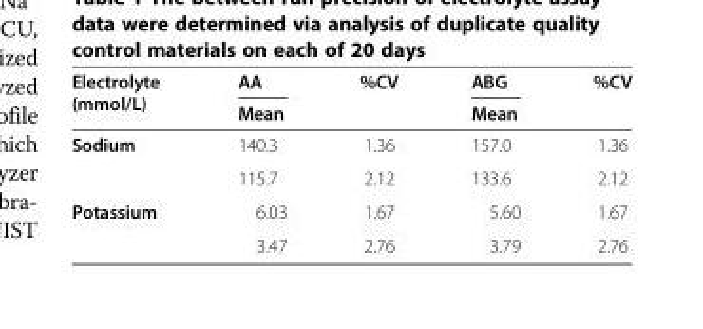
<table><thead><tr><td rowspan="2">Electrolyte (mmol/L)</td><td rowspan="2">AA Mean</td><td rowspan="2">%CV</td><td rowspan="2">ABG Mean</td><td rowspan="2">%CV</td></tr><tr></tr></thead><tbody><tr><td rowspan="2">Sodium</td><td>140.3</td><td>1.36</td><td>157.0</td><td>1.36</td></tr><tr><td>115.7</td><td>2.12</td><td>133.6</td><td>2.12</td></tr><tr><td rowspan="2">Potassium</td><td>6.03</td><td>1.67</td><td>5.60</td><td>1.67</td></tr><tr><td>3.47</td><td>2.76</td><td>3.79</td><td>2.76</td></tr></tbody></table>